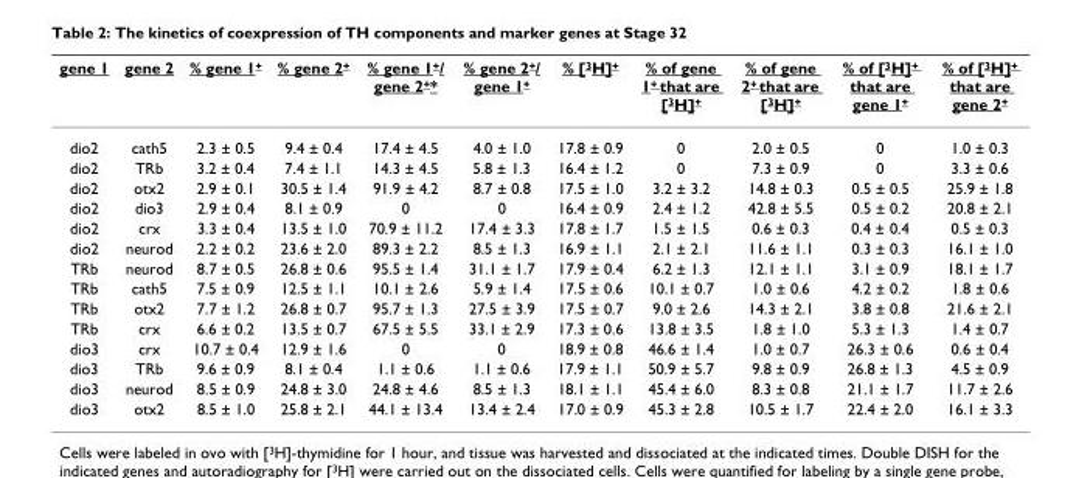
<table><thead><tr><td>gene 1</td><td>gene 2</td><td>% gene 1<sup>+</sup></td><td>% gene 2<sup>+</sup></td><td>% gene 1<sup>+</sup>/ gene 2<sup>+</sup>*</td><td>% gene 2<sup>+</sup>/ gene 1<sup>+</sup></td><td>% [<sup>3</sup>H]<sup>+</sup></td><td>% of gene 1<sup>+</sup> that are [<sup>3</sup>H]<sup>+</sup></td><td>% of gene 2<sup>+</sup> that are [<sup>3</sup>H]<sup>+</sup></td><td>% of [<sup>3</sup>H]<sup>+</sup> that are gene 1<sup>+</sup></td><td>% of [<sup>3</sup>H]<sup>+</sup> that are gene 2<sup>+</sup></td></tr></thead><tbody><tr><td>dio2</td><td>cath5</td><td>2.3 ± 0.5</td><td>9.4 ± 0.4</td><td>17.4 ± 4.5</td><td>4.0 ± 1.0</td><td>17.8 ± 0.9</td><td>0</td><td>2.0 ± 0.5</td><td>0</td><td>1.0 ± 0.3</td></tr><tr><td>dio2</td><td>TRb</td><td>3.2 ± 0.4</td><td>7.4 ± 1.1</td><td>14.3 ± 4.5</td><td>5.8 ± 1.3</td><td>16.4 ± 1.2</td><td>0</td><td>7.3 ± 0.9</td><td>0</td><td>3.3 ± 0.6</td></tr><tr><td>dio2</td><td>otx2</td><td>2.9 ± 0.1</td><td>30.5 ± 1.4</td><td>91.9 ± 4.2</td><td>8.7 ± 0.8</td><td>17.5 ± 1.0</td><td>3.2 ± 3.2</td><td>14.8 ± 0.3</td><td>0.5 ± 0.5</td><td>25.9 ± 1.8</td></tr><tr><td>dio2</td><td>dio3</td><td>2.9 ± 0.4</td><td>8.1 ± 0.9</td><td>0</td><td>0</td><td>16.4 ± 0.9</td><td>2.4 ± 1.2</td><td>42.8 ± 5.5</td><td>0.5 ± 0.2</td><td>20.8 ± 2.1</td></tr><tr><td>dio2</td><td>crx</td><td>3.3 ± 0.4</td><td>13.5 ± 1.0</td><td>70.9 ± 11.2</td><td>17.4 ± 3.3</td><td>17.8 ± 1.7</td><td>1.5 ± 1.5</td><td>0.6 ± 0.3</td><td>0.4 ± 0.4</td><td>0.5 ± 0.3</td></tr><tr><td>dio2</td><td>neurod</td><td>2.2 ± 0.2</td><td>23.6 ± 2.0</td><td>89.3 ± 2.2</td><td>8.5 ± 1.3</td><td>16.9 ± 1.1</td><td>2.1 ± 2.1</td><td>11.6 ± 1.1</td><td>0.3 ± 0.3</td><td>16.1 ± 1.0</td></tr><tr><td>TRb</td><td>neurod</td><td>8.7 ± 0.5</td><td>26.8 ± 0.6</td><td>95.5 ± 1.4</td><td>31.1 ± 1.7</td><td>17.9 ± 0.4</td><td>6.2 ± 1.3</td><td>12.1 ± 1.1</td><td>3.1 ± 0.9</td><td>18.1 ± 1.7</td></tr><tr><td>TRb</td><td>cath5</td><td>7.5 ± 0.9</td><td>12.5 ± 1.1</td><td>10.1 ± 2.6</td><td>5.9 ± 1.4</td><td>17.5 ± 0.6</td><td>10.1 ± 0.7</td><td>1.0 ± 0.6</td><td>4.2 ± 0.2</td><td>1.8 ± 0.6</td></tr><tr><td>TRb</td><td>otx2</td><td>7.7 ± 1.2</td><td>26.8 ± 0.7</td><td>95.7 ± 1.3</td><td>27.5 ± 3.9</td><td>17.5 ± 0.7</td><td>9.0 ± 2.6</td><td>14.3 ± 2.1</td><td>3.8 ± 0.8</td><td>21.6 ± 2.1</td></tr><tr><td>TRb</td><td>crx</td><td>6.6 ± 0.2</td><td>13.5 ± 0.7</td><td>67.5 ± 5.5</td><td>33.1 ± 2.9</td><td>17.3 ± 0.6</td><td>13.8 ± 3.5</td><td>1.8 ± 1.0</td><td>5.3 ± 1.3</td><td>1.4 ± 0.7</td></tr><tr><td>dio3</td><td>crx</td><td>10.7 ± 0.4</td><td>12.9 ± 1.6</td><td>0</td><td>0</td><td>18.9 ± 0.8</td><td>46.6 ± 1.4</td><td>1.0 ± 0.7</td><td>26.3 ± 0.6</td><td>0.6 ± 0.4</td></tr><tr><td>dio3</td><td>TRb</td><td>9.6 ± 0.9</td><td>8.1 ± 0.4</td><td>1.1 ± 0.6</td><td>1.1 ± 0.6</td><td>17.9 ± 1.1</td><td>50.9 ± 5.7</td><td>9.8 ± 0.9</td><td>26.8 ± 1.3</td><td>4.5 ± 0.9</td></tr><tr><td>dio3</td><td>neurod</td><td>8.5 ± 0.9</td><td>24.8 ± 3.0</td><td>24.8 ± 4.6</td><td>8.5 ± 1.3</td><td>18.1 ± 1.1</td><td>45.4 ± 6.0</td><td>8.3 ± 0.8</td><td>21.1 ± 1.7</td><td>11.7 ± 2.6</td></tr><tr><td>dio3</td><td>otx2</td><td>8.5 ± 1.0</td><td>25.8 ± 2.1</td><td>44.1 ± 13.4</td><td>13.4 ± 2.4</td><td>17.0 ± 0.9</td><td>45.3 ± 2.8</td><td>10.5 ± 1.7</td><td>22.4 ± 2.0</td><td>16.1 ± 3.3</td></tr></tbody></table>